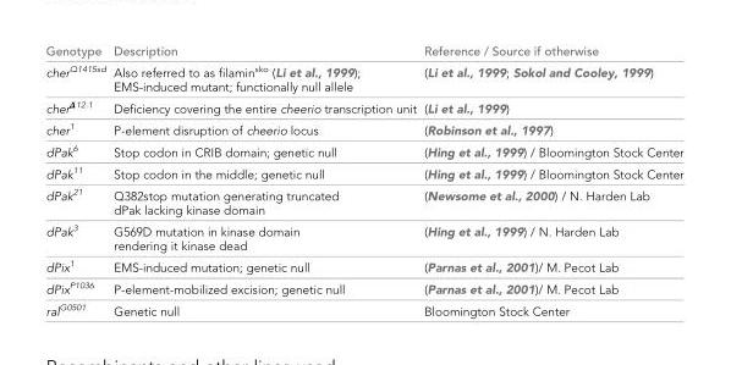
<table><thead><tr><td>Genotype</td><td>Description</td><td>Reference / Source if otherwise</td></tr></thead><tbody><tr><td>cher<sup>Q1415sd</sup></td><td>Also referred to as filamin<sup>sko</sup> (Li et al., 1999); EMS-induced mutant; functionally null allele</td><td>(Li et al., 1999; Sokol and Cooley, 1999)</td></tr><tr><td>cher<sup>Δ12.1</sup></td><td>Deficiency covering the entire cheerio transcription unit</td><td>(Li et al., 1999)</td></tr><tr><td>cher<sup>1</sup></td><td>P-element disruption of cheerio locus</td><td>(Robinson et al., 1997)</td></tr><tr><td>dPak<sup>6</sup></td><td>Stop codon in CRIB domain; genetic null</td><td>(Hing et al., 1999) / Bloomington Stock Center</td></tr><tr><td>dPak<sup>11</sup></td><td>Stop codon in the middle; genetic null</td><td>(Hing et al., 1999) / Bloomington Stock Center</td></tr><tr><td>dPak<sup>21</sup></td><td>Q382stop mutation generating truncated dPak lacking kinase domain</td><td>(Newsome et al., 2000) / N. Harden Lab</td></tr><tr><td>dPak<sup>3</sup></td><td>G569D mutation in kinase domain rendering it kinase dead</td><td>(Hing et al., 1999) / N. Harden Lab</td></tr><tr><td>dPix<sup>1</sup></td><td>EMS-induced mutation; genetic null</td><td>(Parnas et al., 2001)/ M. Pecot Lab</td></tr><tr><td>dPix<sup>P1036</sup></td><td>P-element-mobilized excision; genetic null</td><td>(Parnas et al., 2001)/ M. Pecot Lab</td></tr><tr><td>ral<sup>G0501</sup></td><td>Genetic null</td><td>Bloomington Stock Center</td></tr></tbody></table>